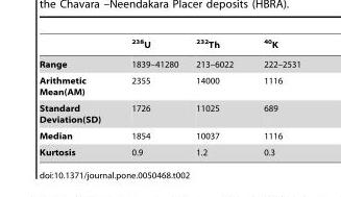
<table><thead><tr><td></td><td><sup>238</sup>U</td><td><sup>232</sup>Th</td><td><sup>40</sup>K</td></tr></thead><tbody><tr><td>Range</td><td>1839–41280</td><td>213–6022</td><td>222–2531</td></tr><tr><td>Arithmetic Mean(AM)</td><td>2355</td><td>14000</td><td>1116</td></tr><tr><td>Standard Deviation(SD)</td><td>1726</td><td>11025</td><td>689</td></tr><tr><td>Median</td><td>1854</td><td>10037</td><td>1116</td></tr><tr><td>Kurtosis</td><td>0.9</td><td>1.2</td><td>0.3</td></tr></tbody></table>